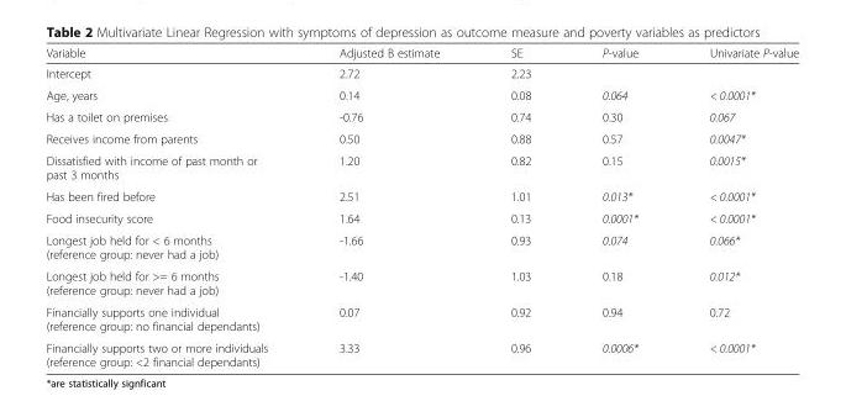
<table><thead><tr><td>Variable</td><td>Adjusted B estimate</td><td>SE</td><td>P-value</td><td>Univariate P-value</td></tr></thead><tbody><tr><td>Intercept</td><td>2.72</td><td>2.23</td><td></td><td></td></tr><tr><td>Age, years</td><td>0.14</td><td>0.08</td><td>0.064</td><td>&lt; 0.0001*</td></tr><tr><td>Has a toilet on premises</td><td>-0.76</td><td>0.74</td><td>0.30</td><td>0.067</td></tr><tr><td>Receives income from parents</td><td>0.50</td><td>0.88</td><td>0.57</td><td>0.0047*</td></tr><tr><td>Dissatisfied with income of past month or past 3 months</td><td>1.20</td><td>0.82</td><td>0.15</td><td>0.0015*</td></tr><tr><td>Has been fired before</td><td>2.51</td><td>1.01</td><td>0.013*</td><td>&lt; 0.0001*</td></tr><tr><td>Food insecurity score</td><td>1.64</td><td>0.13</td><td>0.0001*</td><td>&lt; 0.0001*</td></tr><tr><td>Longest job held for &lt; 6 months (reference group: never had a job)</td><td>-1.66</td><td>0.93</td><td>0.074</td><td>0.066*</td></tr><tr><td>Longest job held for &gt;= 6 months (reference group: never had a job)</td><td>-1.40</td><td>1.03</td><td>0.18</td><td>0.012*</td></tr><tr><td>Financially supports one individual (reference group: no financial dependants)</td><td>0.07</td><td>0.92</td><td>0.94</td><td>0.72</td></tr><tr><td>Financially supports two or more individuals (reference group: &lt;2 financial dependants)</td><td>3.33</td><td>0.96</td><td>0.0006*</td><td>&lt; 0.0001*</td></tr></tbody></table>